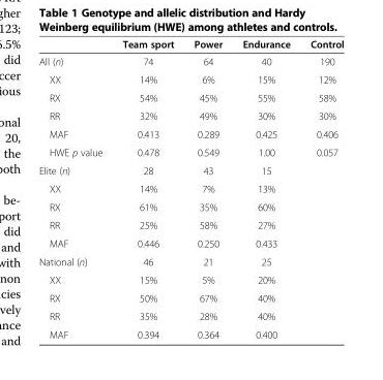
<table><thead><tr><td></td><td>Team sport</td><td>Power</td><td>Endurance</td><td>Control</td></tr></thead><tbody><tr><td>All (n)</td><td>74</td><td>64</td><td>40</td><td>190</td></tr><tr><td>XX</td><td>14%</td><td>6%</td><td>15%</td><td>12%</td></tr><tr><td>RX</td><td>54%</td><td>45%</td><td>55%</td><td>58%</td></tr><tr><td>RR</td><td>32%</td><td>49%</td><td>30%</td><td>30%</td></tr><tr><td>MAF</td><td>0.413</td><td>0.289</td><td>0.425</td><td>0.406</td></tr><tr><td>HWE p value</td><td>0.478</td><td>0.549</td><td>1.00</td><td>0.057</td></tr><tr><td>Elite (n)</td><td>28</td><td>43</td><td>15</td><td></td></tr><tr><td>XX</td><td>14%</td><td>7%</td><td>13%</td><td></td></tr><tr><td>RX</td><td>61%</td><td>35%</td><td>60%</td><td></td></tr><tr><td>RR</td><td>25%</td><td>58%</td><td>27%</td><td></td></tr><tr><td>MAF</td><td>0.446</td><td>0.250</td><td>0.433</td><td></td></tr><tr><td>National (n)</td><td>46</td><td>21</td><td>25</td><td></td></tr><tr><td>XX</td><td>15%</td><td>5%</td><td>20%</td><td></td></tr><tr><td>RX</td><td>50%</td><td>67%</td><td>40%</td><td></td></tr><tr><td>RR</td><td>35%</td><td>28%</td><td>40%</td><td></td></tr><tr><td>MAF</td><td>0.394</td><td>0.364</td><td>0.400</td><td></td></tr></tbody></table>